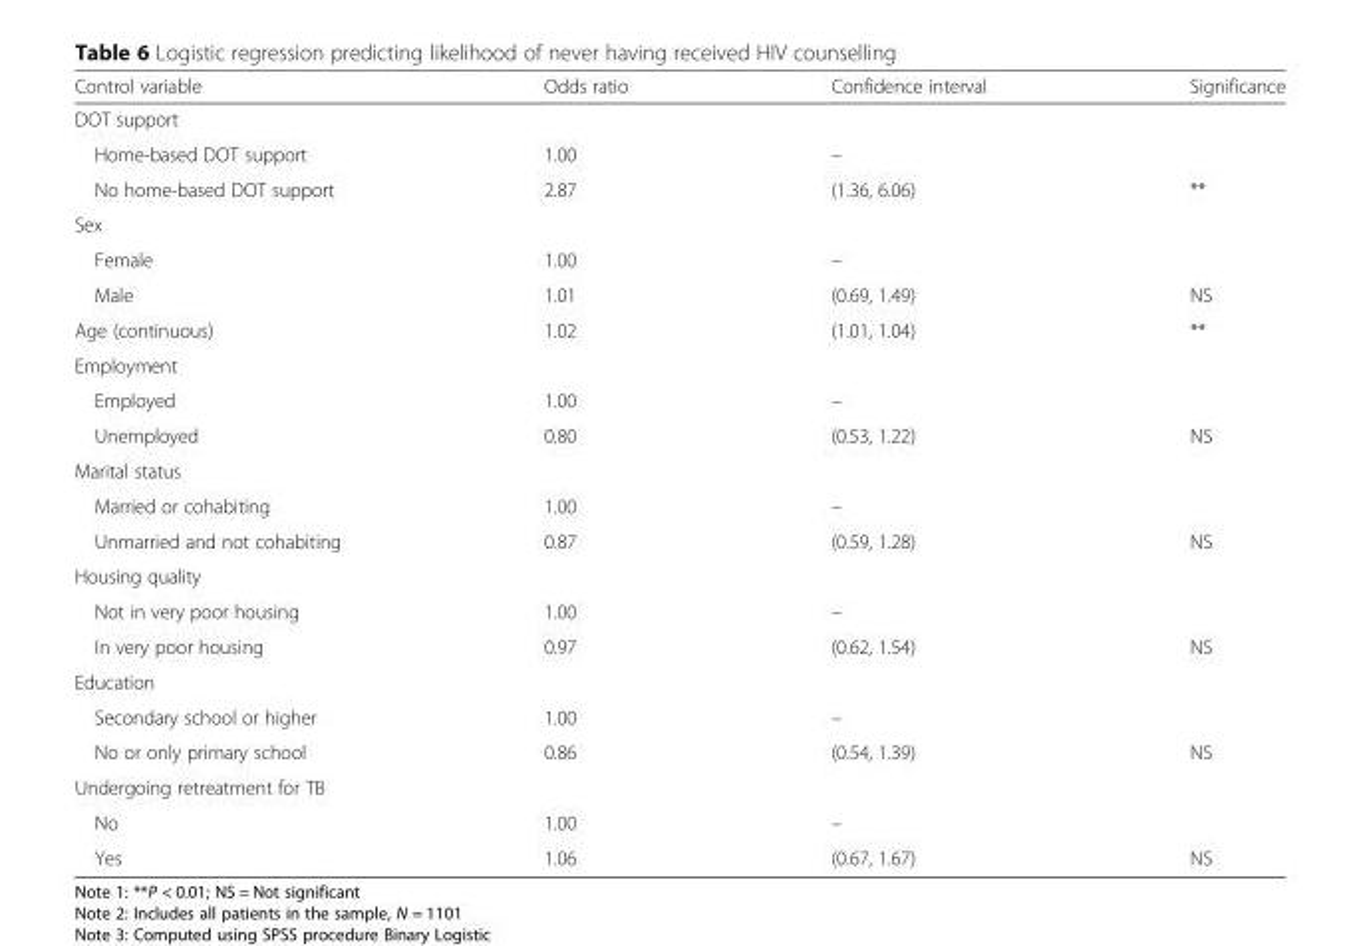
<table><thead><tr><td>Control variable</td><td>Odds ratio</td><td>Confidence interval</td><td>Significance</td></tr></thead><tbody><tr><td colspan="4">DOT support</td></tr><tr><td>Home-based DOT support</td><td>1.00</td><td>–</td><td></td></tr><tr><td>No home-based DOT support</td><td>2.87</td><td>(1.36, 6.06)</td><td>**</td></tr><tr><td colspan="4">Sex</td></tr><tr><td>Female</td><td>1.00</td><td>–</td><td></td></tr><tr><td>Male</td><td>1.01</td><td>(0.69, 1.49)</td><td>NS</td></tr><tr><td>Age (continuous)</td><td>1.02</td><td>(1.01, 1.04)</td><td>**</td></tr><tr><td colspan="4">Employment</td></tr><tr><td>Employed</td><td>1.00</td><td>–</td><td></td></tr><tr><td>Unemployed</td><td>0.80</td><td>(0.53, 1.22)</td><td>NS</td></tr><tr><td colspan="4">Marital status</td></tr><tr><td>Married or cohabiting</td><td>1.00</td><td>–</td><td></td></tr><tr><td>Unmarried and not cohabiting</td><td>0.87</td><td>(0.59, 1.28)</td><td>NS</td></tr><tr><td colspan="4">Housing quality</td></tr><tr><td>Not in very poor housing</td><td>1.00</td><td>–</td><td></td></tr><tr><td>In very poor housing</td><td>0.97</td><td>(0.62, 1.54)</td><td>NS</td></tr><tr><td colspan="4">Education</td></tr><tr><td>Secondary school or higher</td><td>1.00</td><td>–</td><td></td></tr><tr><td>No or only primary school</td><td>0.86</td><td>(0.54, 1.39)</td><td>NS</td></tr><tr><td colspan="4">Undergoing retreatment for TB</td></tr><tr><td>No</td><td>1.00</td><td>–</td><td></td></tr><tr><td>Yes</td><td>1.06</td><td>(0.67, 1.67)</td><td>NS</td></tr></tbody></table>